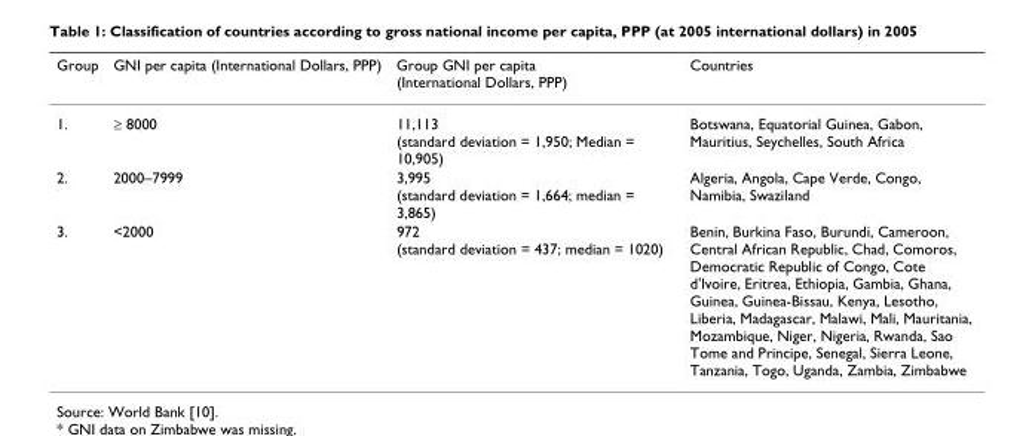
<table><thead><tr><td>Group</td><td>GNI per capita (International Dollars, PPP)</td><td>Group GNI per capita (International Dollars, PPP)</td><td>Countries</td></tr></thead><tbody><tr><td>1.</td><td>≥ 8000</td><td>11,113 (standard deviation = 1,950; Median = 10,905)</td><td>Botswana, Equatorial Guinea, Gabon, Mauritius, Seychelles, South Africa</td></tr><tr><td>2.</td><td>2000–7999</td><td>3,995 (standard deviation = 1,664; median = 3,865)</td><td>Algeria, Angola, Cape Verde, Congo, Namibia, Swaziland</td></tr><tr><td>3.</td><td>&lt;2000</td><td>972 (standard deviation = 437; median = 1020)</td><td>Benin, Burkina Faso, Burundi, Cameroon, Central African Republic, Chad, Comoros, Democratic Republic of Congo, Cote d&#x27;Ivoire, Eritrea, Ethiopia, Gambia, Ghana, Guinea, Guinea-Bissau, Kenya, Lesotho, Liberia, Madagascar, Malawi, Mali, Mauritania, Mozambique, Niger, Nigeria, Rwanda, Sao Tome and Principe, Senegal, Sierra Leone, Tanzania, Togo, Uganda, Zambia, Zimbabwe</td></tr></tbody></table>